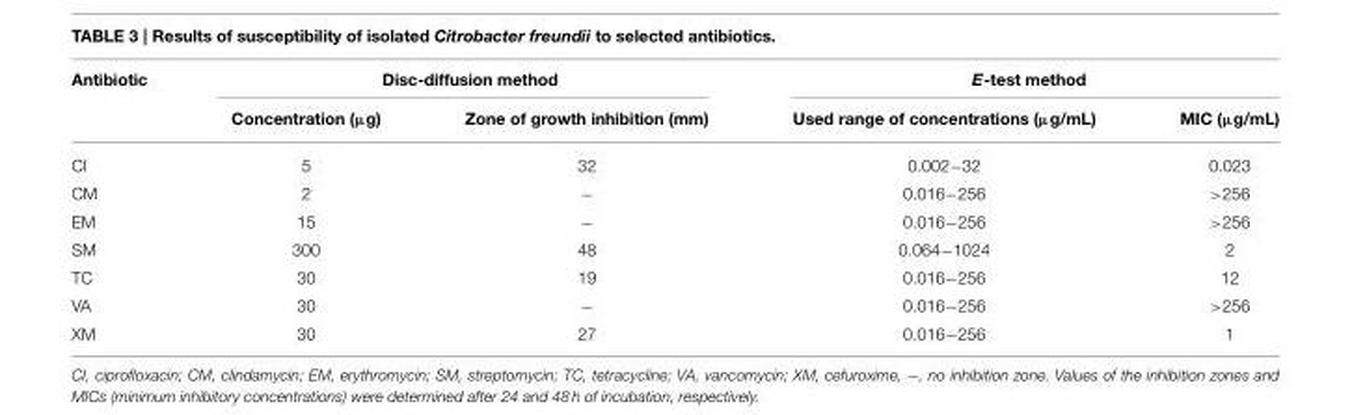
<table><thead><tr><td rowspan="2">Antibiotic</td><td colspan="2">Disc-diffusion method</td><td colspan="2">E-test method</td></tr><tr><td>Concentration (µg)</td><td>Zone of growth inhibition (mm)</td><td>Used range of concentrations (µg/mL)</td><td>MIC (µg/mL)</td></tr></thead><tbody><tr><td>CI</td><td>5</td><td>32</td><td>0.002−32</td><td>0.023</td></tr><tr><td>CM</td><td>2</td><td>−</td><td>0.016−256</td><td>&gt;256</td></tr><tr><td>EM</td><td>15</td><td>−</td><td>0.016−256</td><td>&gt;256</td></tr><tr><td>SM</td><td>300</td><td>48</td><td>0.064−1024</td><td>2</td></tr><tr><td>TC</td><td>30</td><td>19</td><td>0.016−256</td><td>12</td></tr><tr><td>VA</td><td>30</td><td>−</td><td>0.016−256</td><td>&gt;256</td></tr><tr><td>XM</td><td>30</td><td>27</td><td>0.016−256</td><td>1</td></tr></tbody></table>